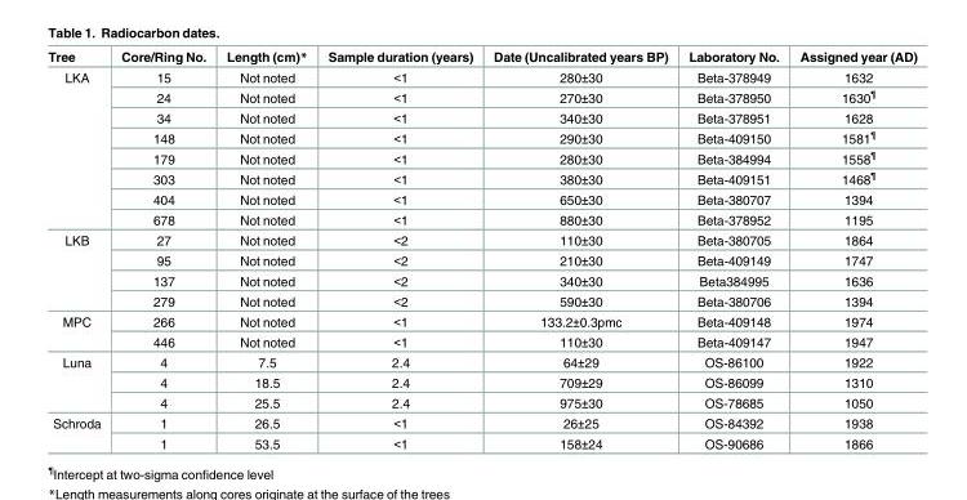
<table><thead><tr><td>Tree</td><td>Core/Ring No.</td><td>Length (cm)*</td><td>Sample duration (years)</td><td>Date (Uncalibrated years BP)</td><td>Laboratory No.</td><td>Assigned year (AD)</td></tr></thead><tbody><tr><td rowspan="8">LKA</td><td>15</td><td>Not noted</td><td>&lt;1</td><td>280±30</td><td>Beta-378949</td><td>1632</td></tr><tr><td>24</td><td>Not noted</td><td>&lt;1</td><td>270±30</td><td>Beta-378950</td><td>1630<sup>¶</sup></td></tr><tr><td>34</td><td>Not noted</td><td>&lt;1</td><td>340±30</td><td>Beta-378951</td><td>1628</td></tr><tr><td>148</td><td>Not noted</td><td>&lt;1</td><td>290±30</td><td>Beta-409150</td><td>1581<sup>¶</sup></td></tr><tr><td>179</td><td>Not noted</td><td>&lt;1</td><td>280±30</td><td>Beta-384994</td><td>1558<sup>¶</sup></td></tr><tr><td>303</td><td>Not noted</td><td>&lt;1</td><td>380±30</td><td>Beta-409151</td><td>1468<sup>¶</sup></td></tr><tr><td>404</td><td>Not noted</td><td>&lt;1</td><td>650±30</td><td>Beta-380707</td><td>1394</td></tr><tr><td>678</td><td>Not noted</td><td>&lt;1</td><td>880±30</td><td>Beta-378952</td><td>1195</td></tr><tr><td rowspan="4">LKB</td><td>27</td><td>Not noted</td><td>&lt;2</td><td>110±30</td><td>Beta-380705</td><td>1864</td></tr><tr><td>95</td><td>Not noted</td><td>&lt;2</td><td>210±30</td><td>Beta-409149</td><td>1747</td></tr><tr><td>137</td><td>Not noted</td><td>&lt;2</td><td>340±30</td><td>Beta384995</td><td>1636</td></tr><tr><td>279</td><td>Not noted</td><td>&lt;2</td><td>590±30</td><td>Beta-380706</td><td>1394</td></tr><tr><td rowspan="2">MPC</td><td>266</td><td>Not noted</td><td>&lt;1</td><td>133.2±0.3pmc</td><td>Beta-409148</td><td>1974</td></tr><tr><td>446</td><td>Not noted</td><td>&lt;1</td><td>110±30</td><td>Beta-409147</td><td>1947</td></tr><tr><td rowspan="3">Luna</td><td>4</td><td>7.5</td><td>2.4</td><td>64±29</td><td>OS-86100</td><td>1922</td></tr><tr><td>4</td><td>18.5</td><td>2.4</td><td>709±29</td><td>OS-86099</td><td>1310</td></tr><tr><td>4</td><td>25.5</td><td>2.4</td><td>975±30</td><td>OS-78685</td><td>1050</td></tr><tr><td rowspan="2">Schroda</td><td>1</td><td>26.5</td><td>&lt;1</td><td>26±25</td><td>OS-84392</td><td>1938</td></tr><tr><td>1</td><td>53.5</td><td>&lt;1</td><td>158±24</td><td>OS-90686</td><td>1866</td></tr></tbody></table>